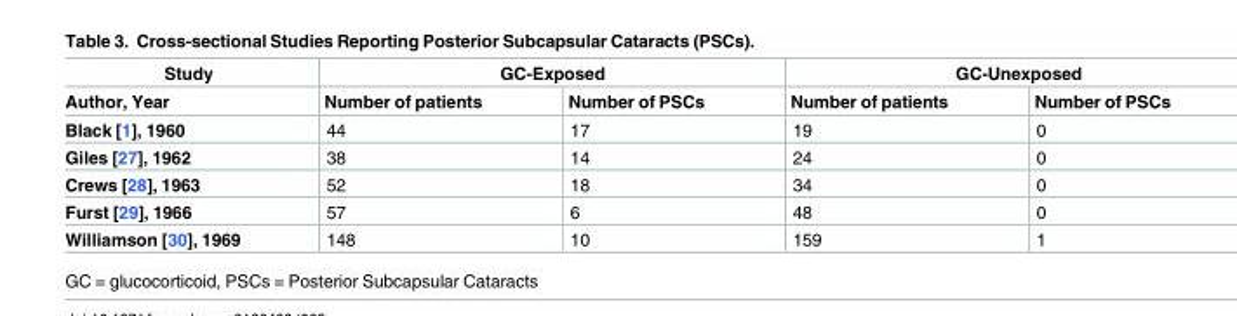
<table><thead><tr><td rowspan="2">Study Author, Year</td><td colspan="2">GC-Exposed</td><td colspan="2">GC-Unexposed</td></tr><tr><td>Number of patients</td><td>Number of PSCs</td><td>Number of patients</td><td>Number of PSCs</td></tr></thead><tbody><tr><td>Black [1], 1960</td><td>44</td><td>17</td><td>19</td><td>0</td></tr><tr><td>Giles [27], 1962</td><td>38</td><td>14</td><td>24</td><td>0</td></tr><tr><td>Crews [28], 1963</td><td>52</td><td>18</td><td>34</td><td>0</td></tr><tr><td>Furst [29], 1966</td><td>57</td><td>6</td><td>48</td><td>0</td></tr><tr><td>Williamson [30], 1969</td><td>148</td><td>10</td><td>159</td><td>1</td></tr></tbody></table>